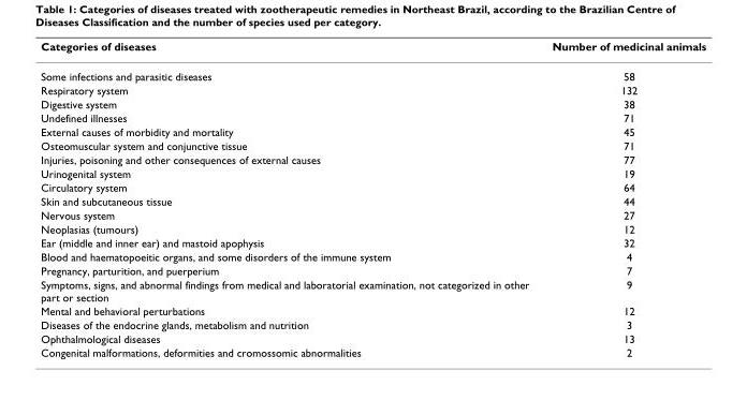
<table><thead><tr><td>Categories of diseases</td><td>Number of medicinal animals</td></tr></thead><tbody><tr><td>Some infections and parasitic diseases</td><td>58</td></tr><tr><td>Respiratory system</td><td>132</td></tr><tr><td>Digestive system</td><td>38</td></tr><tr><td>Undefined illnesses</td><td>71</td></tr><tr><td>External causes of morbidity and mortality</td><td>45</td></tr><tr><td>Osteomuscular system and conjunctive tissue</td><td>71</td></tr><tr><td>Injuries, poisoning and other consequences of external causes</td><td>77</td></tr><tr><td>Urinogenital system</td><td>19</td></tr><tr><td>Circulatory system</td><td>64</td></tr><tr><td>Skin and subcutaneous tissue</td><td>44</td></tr><tr><td>Nervous system</td><td>27</td></tr><tr><td>Neoplasias (tumours)</td><td>12</td></tr><tr><td>Ear (middle and inner ear) and mastoid apophysis</td><td>32</td></tr><tr><td>Blood and haematopoeitic organs, and some disorders of the immune system</td><td>4</td></tr><tr><td>Pregnancy, parturition, and puerperium</td><td>7</td></tr><tr><td>Symptoms, signs, and abnormal findings from medical and laboratorial examination, not categorized in other part or section</td><td>9</td></tr><tr><td>Mental and behavioral perturbations</td><td>12</td></tr><tr><td>Diseases of the endocrine glands, metabolism and nutrition</td><td>3</td></tr><tr><td>Ophthalmological diseases</td><td>13</td></tr><tr><td>Congenital malformations, deformities and cromossomic abnormalities</td><td>2</td></tr></tbody></table>